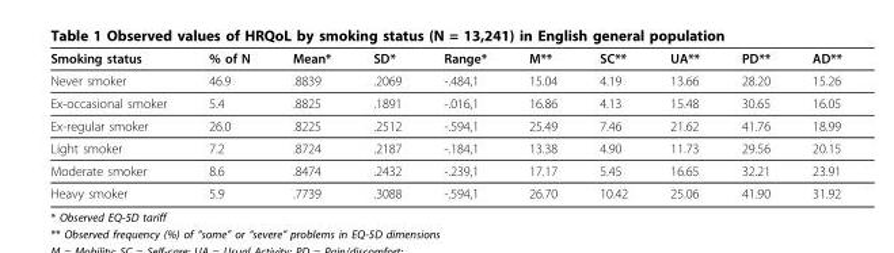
<table><thead><tr><td>Smoking status</td><td>% of N</td><td>Mean*</td><td>SD*</td><td>Range*</td><td>M**</td><td>SC**</td><td>UA**</td><td>PD**</td><td>AD**</td></tr></thead><tbody><tr><td>Never smoker</td><td>46.9</td><td>.8839</td><td>.2069</td><td>-.484,1</td><td>15.04</td><td>4.19</td><td>13.66</td><td>28.20</td><td>15.26</td></tr><tr><td>Ex-occasional smoker</td><td>5.4</td><td>.8825</td><td>.1891</td><td>-.016,1</td><td>16.86</td><td>4.13</td><td>15.48</td><td>30.65</td><td>16.05</td></tr><tr><td>Ex-regular smoker</td><td>26.0</td><td>.8225</td><td>.2512</td><td>-.594,1</td><td>25.49</td><td>7.46</td><td>21.62</td><td>41.76</td><td>18.99</td></tr><tr><td>Light smoker</td><td>7.2</td><td>.8724</td><td>.2187</td><td>-.184,1</td><td>13.38</td><td>4.90</td><td>11.73</td><td>29.56</td><td>20.15</td></tr><tr><td>Moderate smoker</td><td>8.6</td><td>.8474</td><td>.2432</td><td>-.239,1</td><td>17.17</td><td>5.45</td><td>16.65</td><td>32.21</td><td>23.91</td></tr><tr><td>Heavy smoker</td><td>5.9</td><td>.7739</td><td>.3088</td><td>-.594,1</td><td>26.70</td><td>10.42</td><td>25.06</td><td>41.90</td><td>31.92</td></tr></tbody></table>